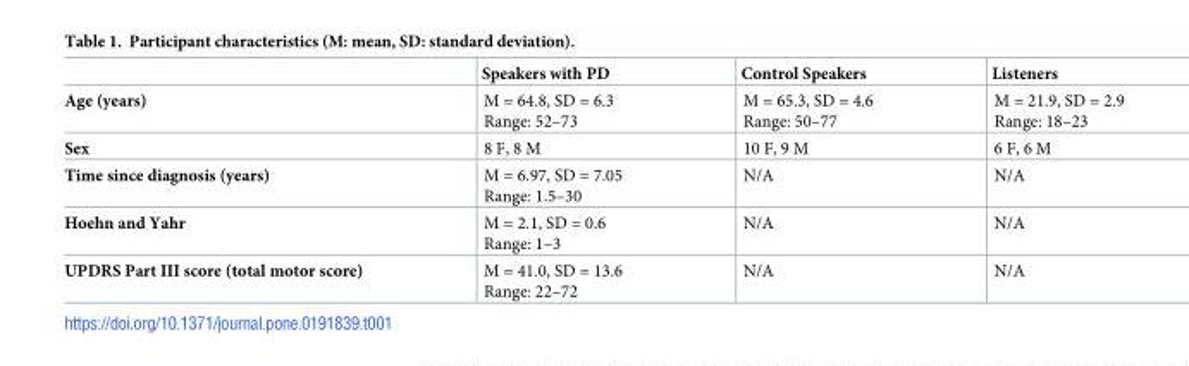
<table><thead><tr><td></td><td>Speakers with PD</td><td>Control Speakers</td><td>Listeners</td></tr></thead><tbody><tr><td>Age (years)</td><td>M = 64.8, SD = 6.3 Range: 52–73</td><td>M = 65.3, SD = 4.6 Range: 50–77</td><td>M = 21.9, SD = 2.9 Range: 18–23</td></tr><tr><td>Sex</td><td>8 F, 8 M</td><td>10 F, 9 M</td><td>6 F, 6 M</td></tr><tr><td>Time since diagnosis (years)</td><td>M = 6.97, SD = 7.05 Range: 1.5–30</td><td>N/A</td><td>N/A</td></tr><tr><td>Hoehn and Yahr</td><td>M = 2.1, SD = 0.6 Range: 1–3</td><td>N/A</td><td>N/A</td></tr><tr><td>UPDRS Part III score (total motor score)</td><td>M = 41.0, SD = 13.6 Range: 22–72</td><td>N/A</td><td>N/A</td></tr></tbody></table>